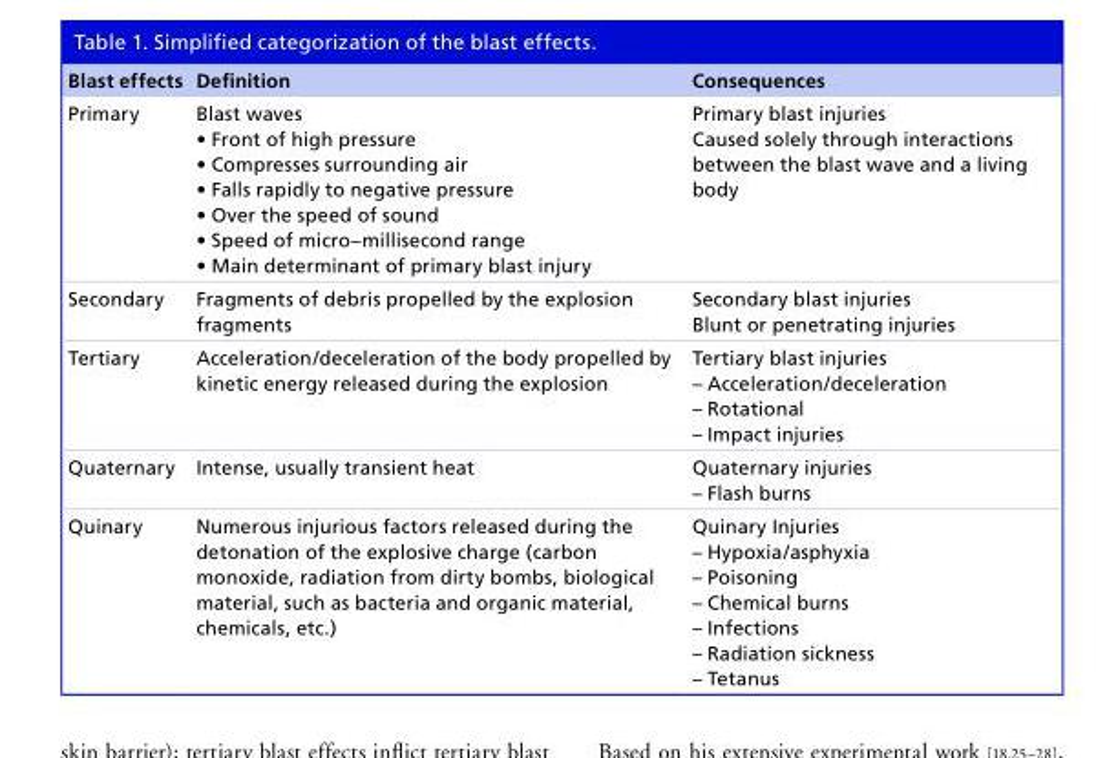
<table><thead><tr><td>Blast effects</td><td>Definition</td><td>Consequences</td></tr></thead><tbody><tr><td>Primary</td><td>Blast waves • Front of high pressure • Compresses surrounding air • Falls rapidly to negative pressure • Over the speed of sound • Speed of micro–millisecond range • Main determinant of primary blast injury</td><td>Primary blast injuries Caused solely through interactions between the blast wave and a living body</td></tr><tr><td>Secondary</td><td>Fragments of debris propelled by the explosion fragments</td><td>Secondary blast injuries Blunt or penetrating injuries</td></tr><tr><td>Tertiary</td><td>Acceleration/deceleration of the body propelled by kinetic energy released during the explosion</td><td>Tertiary blast injuries – Acceleration/deceleration – Rotational – Impact injuries</td></tr><tr><td>Quaternary</td><td>Intense, usually transient heat</td><td>Quaternary injuries – Flash burns</td></tr><tr><td>Quinary</td><td>Numerous injurious factors released during the detonation of the explosive charge (carbon monoxide, radiation from dirty bombs, biological material, such as bacteria and organic material, chemicals, etc.)</td><td>Quinary Injuries – Hypoxia/asphyxia – Poisoning – Chemical burns – Infections – Radiation sickness – Tetanus</td></tr></tbody></table>